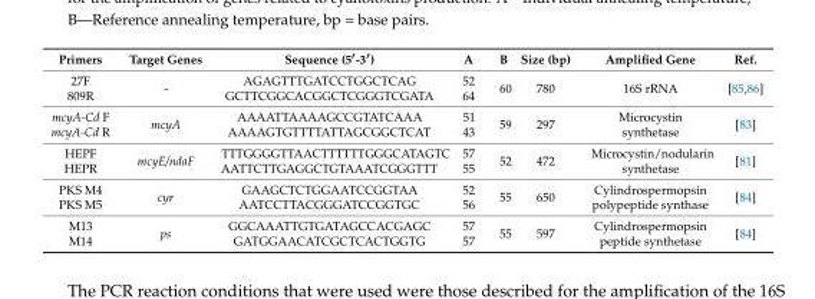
<table><thead><tr><td>Primers</td><td>Target Genes</td><td>Sequence (5′-3′)</td><td>A</td><td>B</td><td>Size (bp)</td><td>Amplified Gene</td><td>Ref.</td></tr></thead><tbody><tr><td>27F 809R</td><td>-</td><td>AGAGTTTGATCCTGGCTCAG GCTTCGGCACGGCTCGGGTCGATA</td><td>52 64</td><td>60</td><td>780</td><td>16S rRNA</td><td>[85,86]</td></tr><tr><td>mcyA-Cd F mcyA-Cd R</td><td>mcyA</td><td>AAAATTAAAAGCCGTATCAAA AAAAGTGTTTTATTAGCGGCTCAT</td><td>51 43</td><td>59</td><td>297</td><td>Microcystin synthetase</td><td>[83]</td></tr><tr><td>HEPF HEPR</td><td>mcyE/ndaF</td><td>TTTGGGGTTAACTTTTTTGGGCATAGTC AATTCTTGAGGCTGTAAATCGGGTTT</td><td>57 55</td><td>52</td><td>472</td><td>Microcystin/nodularin synthetase</td><td>[81]</td></tr><tr><td>PKS M4 PKS M5</td><td>cyr</td><td>GAAGCTCTGGAATCCGGTAA AATCCTTACGGGATCCGGTGC</td><td>52 56</td><td>55</td><td>650</td><td>Cylindrospermopsin polypeptide synthase</td><td>[84]</td></tr><tr><td>M13 M14</td><td>ps</td><td>GGCAAATTGTGATAGCCACGAGC GATGGAACATCGCTCACTGGTG</td><td>57 57</td><td>55</td><td>597</td><td>Cylindrospermopsin peptide synthetase</td><td>[84]</td></tr></tbody></table>